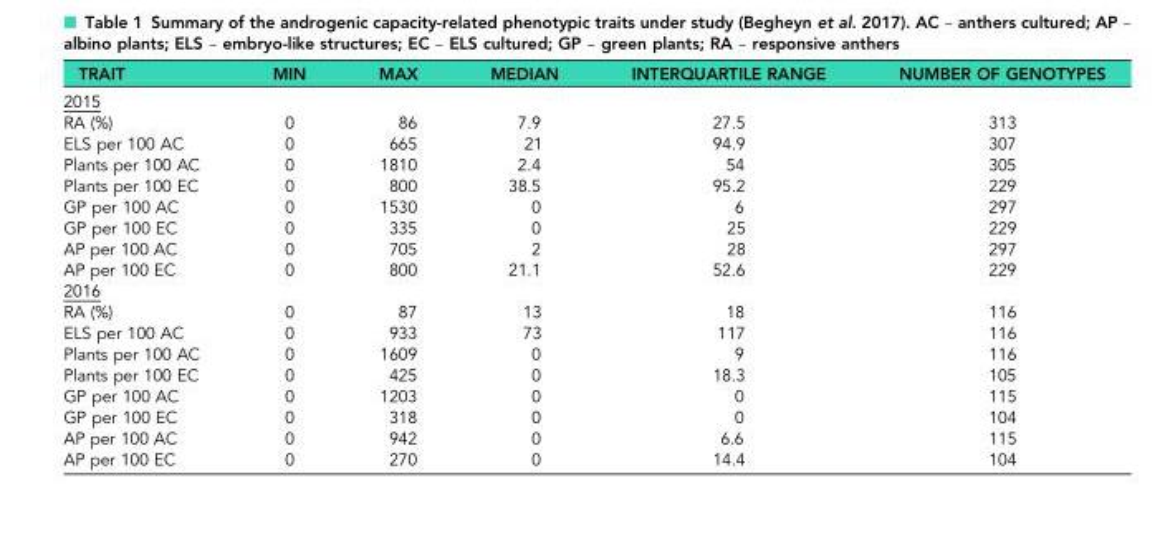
<table><thead><tr><td>TRAIT</td><td>MIN</td><td>MAX</td><td>MEDIAN</td><td>INTERQUARTILE RANGE</td><td>NUMBER OF GENOTYPES</td></tr></thead><tbody><tr><td colspan="6">2015</td></tr><tr><td>RA (%)</td><td>0</td><td>86</td><td>7.9</td><td>27.5</td><td>313</td></tr><tr><td>ELS per 100 AC</td><td>0</td><td>665</td><td>21</td><td>94.9</td><td>307</td></tr><tr><td>Plants per 100 AC</td><td>0</td><td>1810</td><td>2.4</td><td>54</td><td>305</td></tr><tr><td>Plants per 100 EC</td><td>0</td><td>800</td><td>38.5</td><td>95.2</td><td>229</td></tr><tr><td>GP per 100 AC</td><td>0</td><td>1530</td><td>0</td><td>6</td><td>297</td></tr><tr><td>GP per 100 EC</td><td>0</td><td>335</td><td>0</td><td>25</td><td>229</td></tr><tr><td>AP per 100 AC</td><td>0</td><td>705</td><td>2</td><td>28</td><td>297</td></tr><tr><td>AP per 100 EC</td><td>0</td><td>800</td><td>21.1</td><td>52.6</td><td>229</td></tr><tr><td colspan="6">2016</td></tr><tr><td>RA (%)</td><td>0</td><td>87</td><td>13</td><td>18</td><td>116</td></tr><tr><td>ELS per 100 AC</td><td>0</td><td>933</td><td>73</td><td>117</td><td>116</td></tr><tr><td>Plants per 100 AC</td><td>0</td><td>1609</td><td>0</td><td>9</td><td>116</td></tr><tr><td>Plants per 100 EC</td><td>0</td><td>425</td><td>0</td><td>18.3</td><td>105</td></tr><tr><td>GP per 100 AC</td><td>0</td><td>1203</td><td>0</td><td>0</td><td>115</td></tr><tr><td>GP per 100 EC</td><td>0</td><td>318</td><td>0</td><td>0</td><td>104</td></tr><tr><td>AP per 100 AC</td><td>0</td><td>942</td><td>0</td><td>6.6</td><td>115</td></tr><tr><td>AP per 100 EC</td><td>0</td><td>270</td><td>0</td><td>14.4</td><td>104</td></tr></tbody></table>